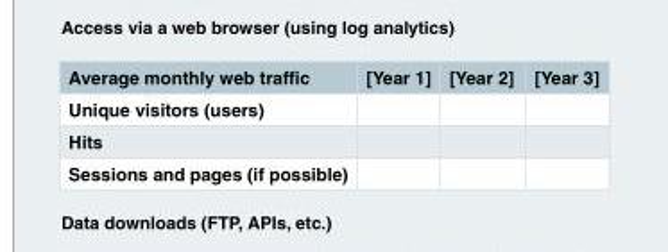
<table><thead><tr><td>Average monthly web traffic</td><td>[Year 1]</td><td>[Year 2]</td><td>[Year 3]</td></tr></thead><tbody><tr><td colspan="4">Unique visitors (users)</td></tr><tr><td colspan="4">Hits</td></tr><tr><td>Sessions and pages (if possible)</td><td></td><td></td><td></td></tr></tbody></table>